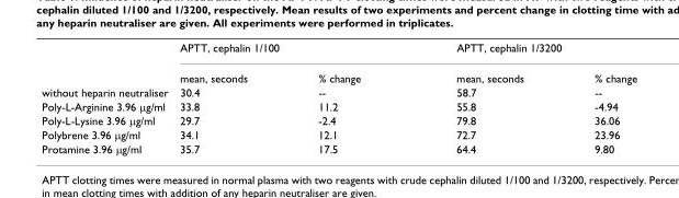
<table><thead><tr><td rowspan="2"></td><td colspan="2">APTT, cephalin 1/100</td><td colspan="2">APTT, cephalin 1/3200</td></tr><tr><td>mean, seconds</td><td>% change</td><td>mean, seconds</td><td>% change</td></tr></thead><tbody><tr><td>without heparin neutraliser</td><td>30.4</td><td>--</td><td>58.7</td><td>--</td></tr><tr><td>Poly-L-Arginine 3.96 µg/ml</td><td>33.8</td><td>11.2</td><td>55.8</td><td>-4.94</td></tr><tr><td>Poly-L-Lysine 3.96 µg/ml</td><td>29.7</td><td>-2.4</td><td>79.8</td><td>36.06</td></tr><tr><td>Polybrene 3.96 µg/ml</td><td>34.1</td><td>12.1</td><td>72.7</td><td>23.96</td></tr><tr><td>Protamine 3.96 µg/ml</td><td>35.7</td><td>17.5</td><td>64.4</td><td>9.80</td></tr></tbody></table>